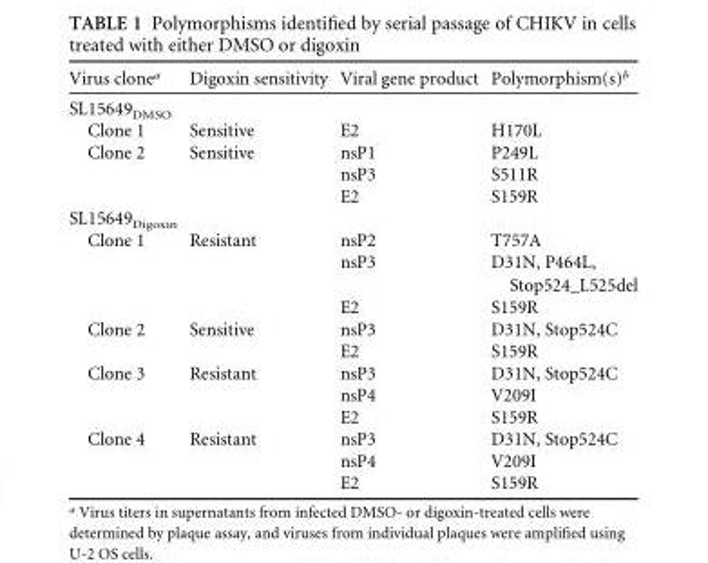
<table><thead><tr><td>Virus clone<sup>a</sup></td><td>Digoxin sensitivity</td><td>Viral gene product</td><td>Polymorphism(s)<sup>b</sup></td></tr></thead><tbody><tr><td colspan="4">SL15649<sub>DMSO</sub></td></tr><tr><td>Clone 1</td><td>Sensitive</td><td>E2</td><td>H170L</td></tr><tr><td rowspan="3">Clone 2</td><td>Sensitive</td><td>nsP1</td><td>P249L</td></tr><tr><td></td><td>nsP3</td><td>S511R</td></tr><tr><td></td><td>E2</td><td>S159R</td></tr><tr><td colspan="4">SL15649<sub>Digoxin</sub></td></tr><tr><td rowspan="3">Clone 1</td><td>Resistant</td><td>nsP2</td><td>T757A</td></tr><tr><td></td><td>nsP3</td><td>D31N, P464L, Stop524_L525del</td></tr><tr><td></td><td>E2</td><td>S159R</td></tr><tr><td rowspan="2">Clone 2</td><td>Sensitive</td><td>nsP3</td><td>D31N, Stop524C</td></tr><tr><td></td><td>E2</td><td>S159R</td></tr><tr><td rowspan="3">Clone 3</td><td>Resistant</td><td>nsP3</td><td>D31N, Stop524C</td></tr><tr><td></td><td>nsP4</td><td>V209I</td></tr><tr><td></td><td>E2</td><td>S159R</td></tr><tr><td rowspan="3">Clone 4</td><td>Resistant</td><td>nsP3</td><td>D31N, Stop524C</td></tr><tr><td></td><td>nsP4</td><td>V209I</td></tr><tr><td></td><td>E2</td><td>S159R</td></tr></tbody></table>